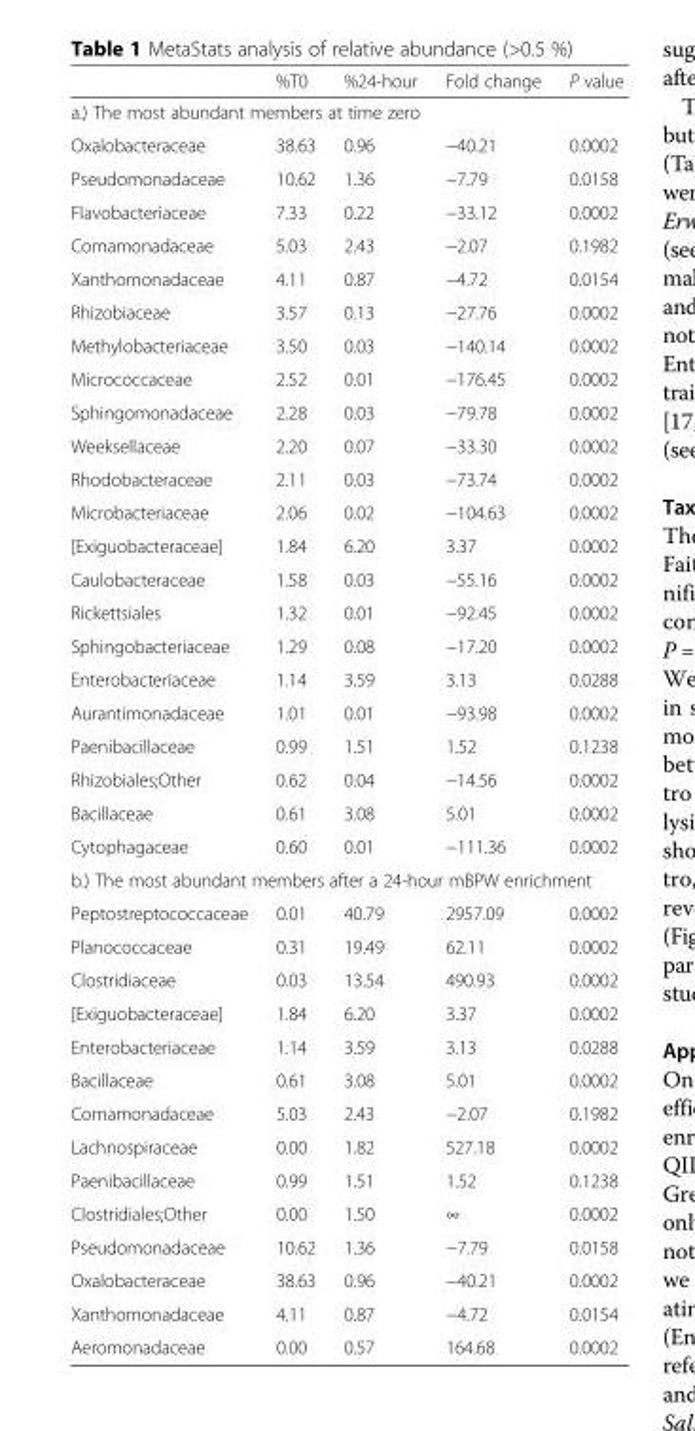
<table><thead><tr><td></td><td>%T0</td><td>%24-hour</td><td>Fold change</td><td>P value</td></tr></thead><tbody><tr><td colspan="5">a.) The most abundant members at time zero</td></tr><tr><td>Oxalobacteraceae</td><td>38.63</td><td>0.96</td><td>−40.21</td><td>0.0002</td></tr><tr><td>Pseudomonadaceae</td><td>10.62</td><td>1.36</td><td>−7.79</td><td>0.0158</td></tr><tr><td>Flavobacteriaceae</td><td>7.33</td><td>0.22</td><td>−33.12</td><td>0.0002</td></tr><tr><td>Comamonadaceae</td><td>5.03</td><td>2.43</td><td>−2.07</td><td>0.1982</td></tr><tr><td>Xanthomonadaceae</td><td>4.11</td><td>0.87</td><td>−4.72</td><td>0.0154</td></tr><tr><td>Rhizobiaceae</td><td>3.57</td><td>0.13</td><td>−27.76</td><td>0.0002</td></tr><tr><td>Methylobacteriaceae</td><td>3.50</td><td>0.03</td><td>−140.14</td><td>0.0002</td></tr><tr><td>Micrococcaceae</td><td>2.52</td><td>0.01</td><td>−176.45</td><td>0.0002</td></tr><tr><td>Sphingomonadaceae</td><td>2.28</td><td>0.03</td><td>−79.78</td><td>0.0002</td></tr><tr><td>Weeksellaceae</td><td>2.20</td><td>0.07</td><td>−33.30</td><td>0.0002</td></tr><tr><td>Rhodobacteraceae</td><td>2.11</td><td>0.03</td><td>−73.74</td><td>0.0002</td></tr><tr><td>Microbacteriaceae</td><td>2.06</td><td>0.02</td><td>−104.63</td><td>0.0002</td></tr><tr><td>[Exiguobacteraceae]</td><td>1.84</td><td>6.20</td><td>3.37</td><td>0.0002</td></tr><tr><td>Caulobacteraceae</td><td>1.58</td><td>0.03</td><td>−55.16</td><td>0.0002</td></tr><tr><td>Rickettsiales</td><td>1.32</td><td>0.01</td><td>−92.45</td><td>0.0002</td></tr><tr><td>Sphingobacteriaceae</td><td>1.29</td><td>0.08</td><td>−17.20</td><td>0.0002</td></tr><tr><td>Enterobacteriaceae</td><td>1.14</td><td>3.59</td><td>3.13</td><td>0.0288</td></tr><tr><td>Aurantimonadaceae</td><td>1.01</td><td>0.01</td><td>−93.98</td><td>0.0002</td></tr><tr><td>Paenibacillaceae</td><td>0.99</td><td>1.51</td><td>1.52</td><td>0.1238</td></tr><tr><td>Rhizobiales;Other</td><td>0.62</td><td>0.04</td><td>−14.56</td><td>0.0002</td></tr><tr><td>Bacillaceae</td><td>0.61</td><td>3.08</td><td>5.01</td><td>0.0002</td></tr><tr><td>Cytophagaceae</td><td>0.60</td><td>0.01</td><td>−111.36</td><td>0.0002</td></tr><tr><td colspan="5">b.) The most abundant members after a 24-hour mBPW enrichment</td></tr><tr><td>Peptostreptococcaceae</td><td>0.01</td><td>40.79</td><td>2957.09</td><td>0.0002</td></tr><tr><td>Planococcaceae</td><td>0.31</td><td>19.49</td><td>62.11</td><td>0.0002</td></tr><tr><td>Clostridiaceae</td><td>0.03</td><td>13.54</td><td>490.93</td><td>0.0002</td></tr><tr><td>[Exiguobacteraceae]</td><td>1.84</td><td>6.20</td><td>3.37</td><td>0.0002</td></tr><tr><td>Enterobacteriaceae</td><td>1.14</td><td>3.59</td><td>3.13</td><td>0.0288</td></tr><tr><td>Bacillaceae</td><td>0.61</td><td>3.08</td><td>5.01</td><td>0.0002</td></tr><tr><td>Comamonadaceae</td><td>5.03</td><td>2.43</td><td>−2.07</td><td>0.1982</td></tr><tr><td>Lachnospiraceae</td><td>0.00</td><td>1.82</td><td>527.18</td><td>0.0002</td></tr><tr><td>Paenibacillaceae</td><td>0.99</td><td>1.51</td><td>1.52</td><td>0.1238</td></tr><tr><td>Clostridiales;Other</td><td>0.00</td><td>1.50</td><td>∞</td><td>0.0002</td></tr><tr><td>Pseudomonadaceae</td><td>10.62</td><td>1.36</td><td>−7.79</td><td>0.0158</td></tr><tr><td>Oxalobacteraceae</td><td>38.63</td><td>0.96</td><td>−40.21</td><td>0.0002</td></tr><tr><td>Xanthomonadaceae</td><td>4.11</td><td>0.87</td><td>−4.72</td><td>0.0154</td></tr><tr><td>Aeromonadaceae</td><td>0.00</td><td>0.57</td><td>164.68</td><td>0.0002</td></tr></tbody></table>